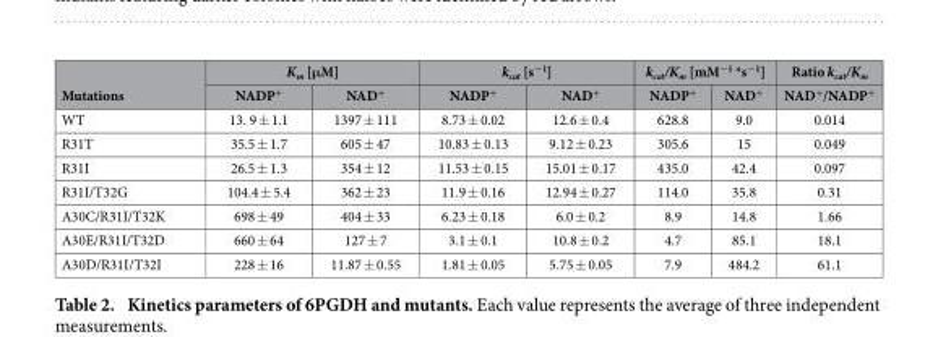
<table><thead><tr><td rowspan="2">Mutations</td><td colspan="2">K<sub>m</sub> [μM]</td><td colspan="2">k<sub>cat</sub> [s<sup>−1</sup>]</td><td colspan="2">k<sub>cat</sub>/K<sub>m</sub> [mM<sup>−1</sup> *s<sup>−1</sup>]</td><td rowspan="2">Ratio k<sub>cat</sub>/K<sub>m</sub> NAD<sup>+</sup>/NADP<sup>+</sup></td></tr><tr><td>NADP<sup>+</sup></td><td>NAD<sup>+</sup></td><td>NADP<sup>+</sup></td><td>NAD<sup>+</sup></td><td>NADP<sup>+</sup></td><td>NAD<sup>+</sup></td></tr></thead><tbody><tr><td>WT</td><td>13. 9 ± 1.1</td><td>1397 ± 111</td><td>8.73 ± 0.02</td><td>12.6 ± 0.4</td><td>628.8</td><td>9.0</td><td>0.014</td></tr><tr><td>R31T</td><td>35.5 ± 1.7</td><td>605 ± 47</td><td>10.83 ± 0.13</td><td>9.12 ± 0.23</td><td>305.6</td><td>15</td><td>0.049</td></tr><tr><td>R31I</td><td>26.5 ± 1.3</td><td>354 ± 12</td><td>11.53 ± 0.15</td><td>15.01 ± 0.17</td><td>435.0</td><td>42.4</td><td>0.097</td></tr><tr><td>R31I/T32G</td><td>104.4 ± 5.4</td><td>362 ± 23</td><td>11.9 ± 0.16</td><td>12.94 ± 0.27</td><td>114.0</td><td>35.8</td><td>0.31</td></tr><tr><td>A30C/R31I/T32K</td><td>698 ± 49</td><td>404 ± 33</td><td>6.23 ± 0.18</td><td>6.0 ± 0.2</td><td>8.9</td><td>14.8</td><td>1.66</td></tr><tr><td>A30E/R31I/T32D</td><td>660 ± 64</td><td>127 ± 7</td><td>3.1 ± 0.1</td><td>10.8 ± 0.2</td><td>4.7</td><td>85.1</td><td>18.1</td></tr><tr><td>A30D/R31I/T32I</td><td>228 ± 16</td><td>11.87 ± 0.55</td><td>1.81 ± 0.05</td><td>5.75 ± 0.05</td><td>7.9</td><td>484.2</td><td>61.1</td></tr></tbody></table>